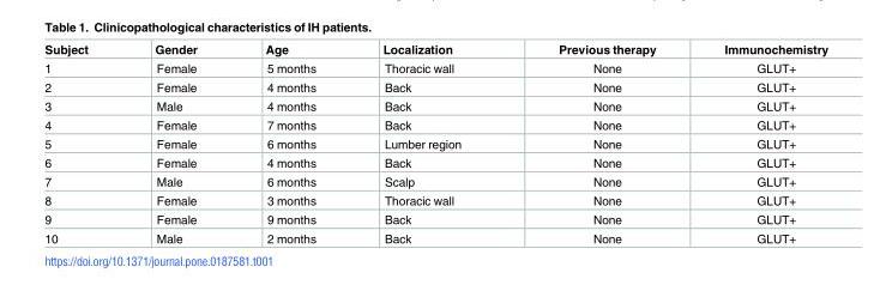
<table><thead><tr><td>Subject</td><td>Gender</td><td>Age</td><td>Localization</td><td>Previous therapy</td><td>Immunochemistry</td></tr></thead><tbody><tr><td>1</td><td>Female</td><td>5 months</td><td>Thoracic wall</td><td>None</td><td>GLUT+</td></tr><tr><td>2</td><td>Female</td><td>4 months</td><td>Back</td><td>None</td><td>GLUT+</td></tr><tr><td>3</td><td>Male</td><td>4 months</td><td>Back</td><td>None</td><td>GLUT+</td></tr><tr><td>4</td><td>Female</td><td>7 months</td><td>Back</td><td>None</td><td>GLUT+</td></tr><tr><td>5</td><td>Female</td><td>6 months</td><td>Lumber region</td><td>None</td><td>GLUT+</td></tr><tr><td>6</td><td>Female</td><td>4 months</td><td>Back</td><td>None</td><td>GLUT+</td></tr><tr><td>7</td><td>Male</td><td>6 months</td><td>Scalp</td><td>None</td><td>GLUT+</td></tr><tr><td>8</td><td>Female</td><td>3 months</td><td>Thoracic wall</td><td>None</td><td>GLUT+</td></tr><tr><td>9</td><td>Female</td><td>9 months</td><td>Back</td><td>None</td><td>GLUT+</td></tr><tr><td>10</td><td>Male</td><td>2 months</td><td>Back</td><td>None</td><td>GLUT+</td></tr></tbody></table>